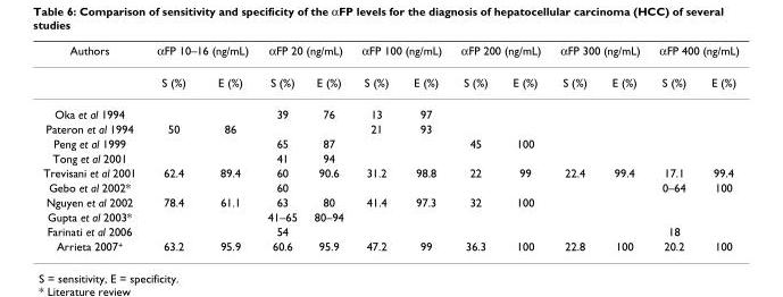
<table><thead><tr><td rowspan="2">Authors</td><td colspan="2">αFP 10–16 (ng/mL)</td><td colspan="2">αFP 20 (ng/mL)</td><td colspan="2">αFP 100 (ng/mL)</td><td colspan="2">αFP 200 (ng/mL)</td><td colspan="2">αFP 300 (ng/mL)</td><td colspan="2">αFP 400 (ng/mL)</td></tr><tr><td>S (%)</td><td>E (%)</td><td>S (%)</td><td>E (%)</td><td>S (%)</td><td>E (%)</td><td>S (%)</td><td>E (%)</td><td>S (%)</td><td>E (%)</td><td>S (%)</td><td>E (%)</td></tr></thead><tbody><tr><td>Oka et al 1994</td><td></td><td></td><td>39</td><td>76</td><td>13</td><td>97</td><td></td><td></td><td></td><td></td><td></td><td></td></tr><tr><td>Pateron et al 1994</td><td>50</td><td>86</td><td></td><td></td><td>21</td><td>93</td><td></td><td></td><td></td><td></td><td></td><td></td></tr><tr><td>Peng et al 1999</td><td></td><td></td><td>65</td><td>87</td><td></td><td></td><td>45</td><td>100</td><td></td><td></td><td></td><td></td></tr><tr><td>Tong et al 2001</td><td></td><td></td><td>41</td><td>94</td><td></td><td></td><td></td><td></td><td></td><td></td><td></td><td></td></tr><tr><td>Trevisani et al 2001</td><td>62.4</td><td>89.4</td><td>60</td><td>90.6</td><td>31.2</td><td>98.8</td><td>22</td><td>99</td><td>22.4</td><td>99.4</td><td>17.1</td><td>99.4</td></tr><tr><td>Gebo et al 2002*</td><td></td><td></td><td>60</td><td></td><td></td><td></td><td></td><td></td><td></td><td></td><td>0–64</td><td>100</td></tr><tr><td>Nguyen et al 2002</td><td>78.4</td><td>61.1</td><td>63</td><td>80</td><td>41.4</td><td>97.3</td><td>32</td><td>100</td><td></td><td></td><td></td><td></td></tr><tr><td>Gupta et al 2003*</td><td></td><td></td><td>41–65</td><td>80–94</td><td></td><td></td><td></td><td></td><td></td><td></td><td></td><td></td></tr><tr><td>Farinati et al 2006</td><td></td><td></td><td>54</td><td></td><td></td><td></td><td></td><td></td><td></td><td></td><td>18</td><td></td></tr><tr><td>Arrieta 2007+</td><td>63.2</td><td>95.9</td><td>60.6</td><td>95.9</td><td>47.2</td><td>99</td><td>36.3</td><td>100</td><td>22.8</td><td>100</td><td>20.2</td><td>100</td></tr></tbody></table>